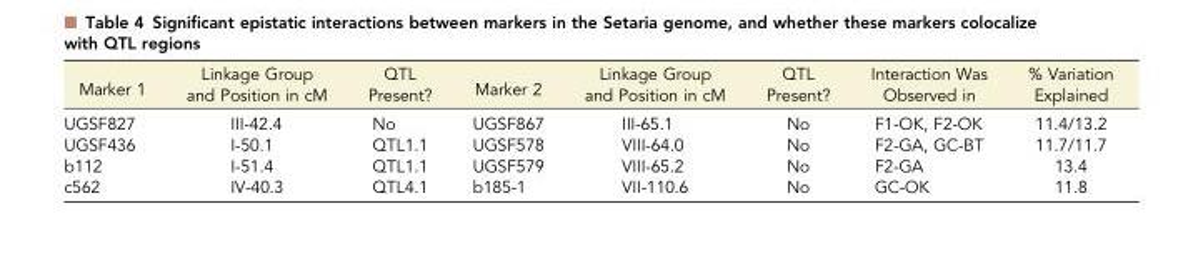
<table><thead><tr><td>Marker 1</td><td>Linkage Group and Position in cM</td><td>QTL Present?</td><td>Marker 2</td><td>Linkage Group and Position in cM</td><td>QTL Present?</td><td>Interaction Was Observed in</td><td>% Variation Explained</td></tr></thead><tbody><tr><td>UGSF827</td><td>III-42.4</td><td>No</td><td>UGSF867</td><td>III-65.1</td><td>No</td><td>F1-OK, F2-OK</td><td>11.4/13.2</td></tr><tr><td>UGSF436</td><td>I-50.1</td><td>QTL1.1</td><td>UGSF578</td><td>VIII-64.0</td><td>No</td><td>F2-GA, GC-BT</td><td>11.7/11.7</td></tr><tr><td>b112</td><td>I-51.4</td><td>QTL1.1</td><td>UGSF579</td><td>VIII-65.2</td><td>No</td><td>F2-GA</td><td>13.4</td></tr><tr><td>c562</td><td>IV-40.3</td><td>QTL4.1</td><td>b185-1</td><td>VII-110.6</td><td>No</td><td>GC-OK</td><td>11.8</td></tr></tbody></table>